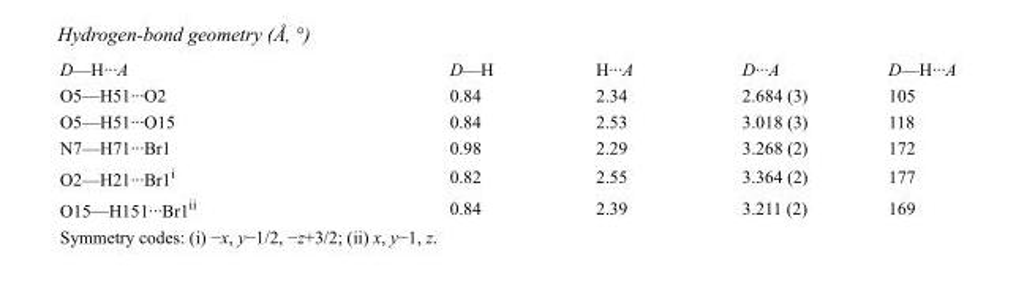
<table><tbody><tr><td>D—H···A</td><td>D—H</td><td>H···A</td><td>D···A</td><td>D—H···A</td></tr><tr><td>O5—H51···O2</td><td>0.84</td><td>2.34</td><td>2.684 (3)</td><td>105</td></tr><tr><td>O5—H51···O15</td><td>0.84</td><td>2.53</td><td>3.018 (3)</td><td>118</td></tr><tr><td>N7—H71···Br1</td><td>0.98</td><td>2.29</td><td>3.268 (2)</td><td>172</td></tr><tr><td>O2—H21···Br1<sup>i</sup></td><td>0.82</td><td>2.55</td><td>3.364 (2)</td><td>177</td></tr><tr><td>O15—H151···Br1<sup>ii</sup></td><td>0.84</td><td>2.39</td><td>3.211 (2)</td><td>169</td></tr></tbody></table>